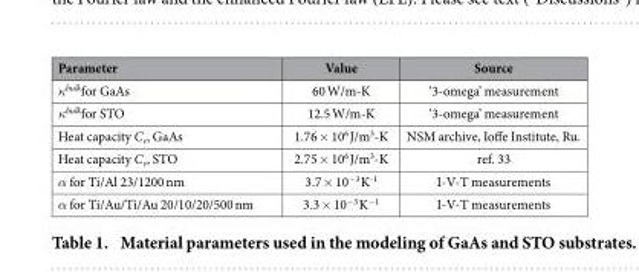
<table><thead><tr><td>Parameter</td><td>Value</td><td>Source</td></tr></thead><tbody><tr><td>κ<sup>bulk</sup>for GaAs</td><td>60 W/m-K</td><td>‘3-omega’ measurement</td></tr><tr><td>κ<sup>bulk</sup>for STO</td><td>12.5 W/m-K</td><td>‘3-omega’ measurement</td></tr><tr><td>Heat capacity C<sub>v</sub>, GaAs</td><td>1.76 × 10<sup>6</sup> J/m<sup>3</sup>-K</td><td>NSM archive, Ioffe Institute, Ru.</td></tr><tr><td>Heat capacity C<sub>v</sub>, STO</td><td>2.75 × 10<sup>6</sup> J/m<sup>3</sup>-K</td><td>ref. 33</td></tr><tr><td>α for Ti/Al 23/1200 nm</td><td>3.7 × 10<sup>−3</sup> K<sup>-1</sup></td><td>I-V-T measurements</td></tr><tr><td>α for Ti/Au/Ti/Au 20/10/20/500 nm</td><td>3.3 × 10<sup>−3</sup> K<sup>−1</sup></td><td>I-V-T measurements</td></tr></tbody></table>